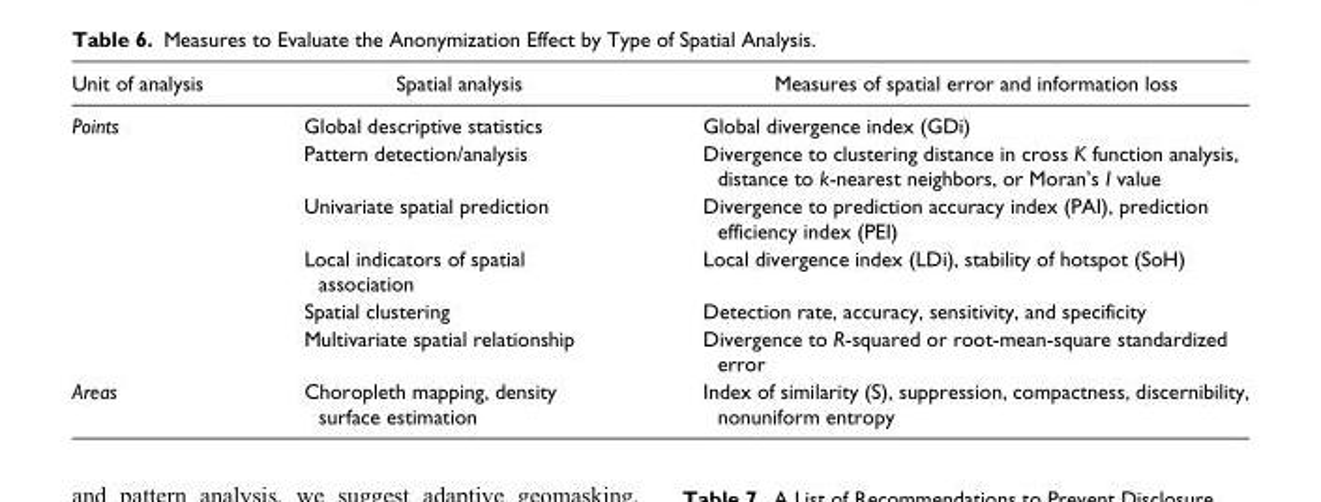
<table><thead><tr><td>Unit of analysis</td><td>Spatial analysis</td><td>Measures of spatial error and information loss</td></tr></thead><tbody><tr><td rowspan="6">Points</td><td>Global descriptive statistics</td><td>Global divergence index (GDi)</td></tr><tr><td>Pattern detection/analysis</td><td>Divergence to clustering distance in cross K function analysis, distance to k-nearest neighbors, or Moran’s I value</td></tr><tr><td>Univariate spatial prediction</td><td>Divergence to prediction accuracy index (PAI), prediction efficiency index (PEI)</td></tr><tr><td>Local indicators of spatial association</td><td>Local divergence index (LDi), stability of hotspot (SoH)</td></tr><tr><td>Spatial clustering</td><td>Detection rate, accuracy, sensitivity, and specificity</td></tr><tr><td>Multivariate spatial relationship</td><td>Divergence to R-squared or root-mean-square standardized error</td></tr><tr><td>Areas</td><td>Choropleth mapping, density surface estimation</td><td>Index of similarity (S), suppression, compactness, discernibility, nonuniform entropy</td></tr></tbody></table>